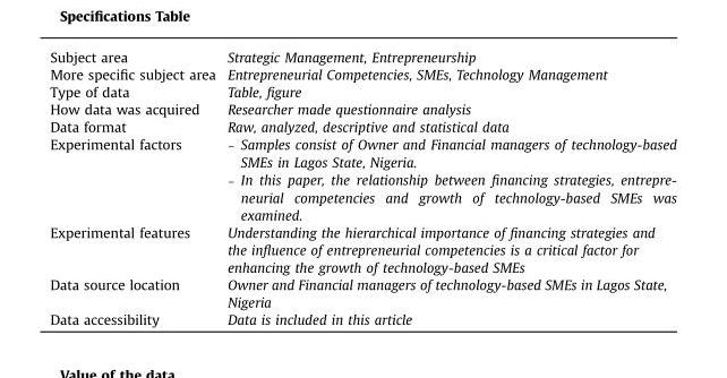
<table><tbody><tr><td>Subject area</td><td>Strategic Management, Entrepreneurship</td></tr><tr><td>More specific subject area</td><td>Entrepreneurial Competencies, SMEs, Technology Management</td></tr><tr><td>Type of data</td><td>Table, figure</td></tr><tr><td>How data was acquired</td><td>Researcher made questionnaire analysis</td></tr><tr><td>Data format</td><td>Raw, analyzed, descriptive and statistical data</td></tr><tr><td>Experimental factors</td><td>– Samples consist of Owner and Financial managers of technology-based SMEs in Lagos State, Nigeria. – In this paper, the relationship between financing strategies, entrepre- neurial competencies and growth of technology-based SMEs was examined.</td></tr><tr><td>Experimental features</td><td>Understanding the hierarchical importance of financing strategies and the influence of entrepreneurial competencies is a critical factor for enhancing the growth of technology-based SMEs</td></tr><tr><td>Data source location</td><td>Owner and Financial managers of technology-based SMEs in Lagos State, Nigeria</td></tr><tr><td>Data accessibility</td><td>Data is included in this article</td></tr></tbody></table>